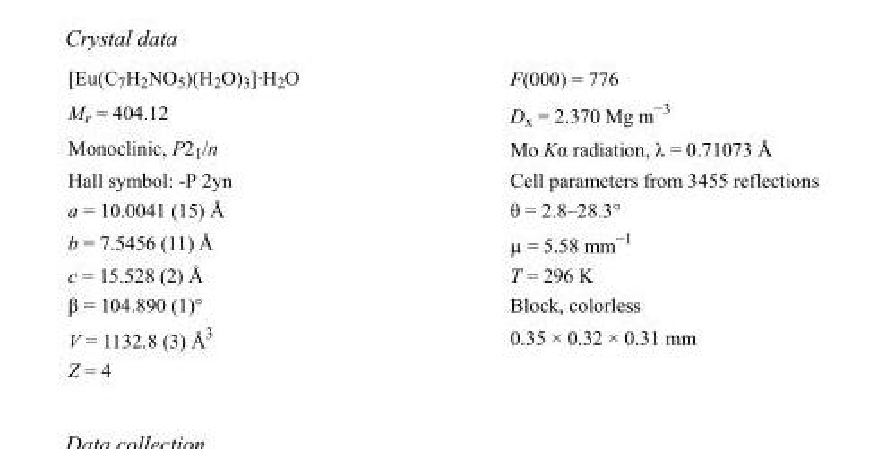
<table><tbody><tr><td>[Eu(C<sub>7</sub>H<sub>2</sub>NO<sub>5</sub>)(H<sub>2</sub>O)<sub>3</sub>]·H<sub>2</sub>O</td><td>F(000) = 776</td></tr><tr><td>M<sub>r</sub> = 404.12</td><td>D<sub>x</sub> = 2.370 Mg m<sup>−3</sup></td></tr><tr><td>Monoclinic, P2<sub>1</sub>/n</td><td>Mo Kα radiation, λ = 0.71073 Å</td></tr><tr><td>Hall symbol: -P 2yn</td><td>Cell parameters from 3455 reflections</td></tr><tr><td>a = 10.0041 (15) Å</td><td>θ = 2.8–28.3°</td></tr><tr><td>b = 7.5456 (11) Å</td><td>µ = 5.58 mm<sup>−1</sup></td></tr><tr><td>c = 15.528 (2) Å</td><td>T = 296 K</td></tr><tr><td>β = 104.890 (1)°</td><td>Block, colorless</td></tr><tr><td>V = 1132.8 (3) Å<sup>3</sup></td><td>0.35 × 0.32 × 0.31 mm</td></tr><tr><td>Z = 4</td><td></td></tr></tbody></table>